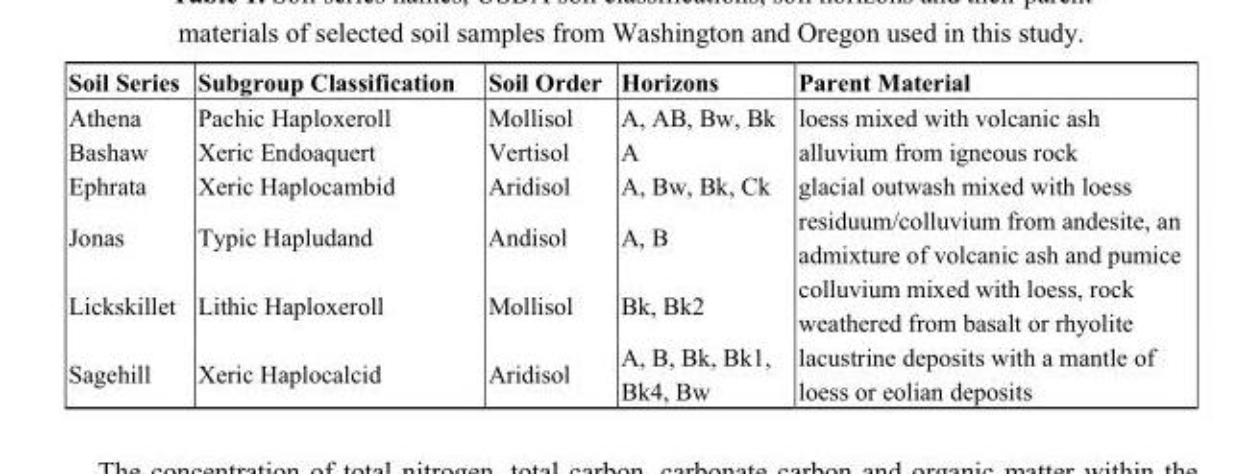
<table><thead><tr><td>Soil Series</td><td>Subgroup Classification</td><td>Soil Order</td><td>Horizons</td><td>Parent Material</td></tr></thead><tbody><tr><td>Athena</td><td>Pachic Haploxeroll</td><td>Mollisol</td><td>A, AB, Bw, Bk</td><td>loess mixed with volcanic ash</td></tr><tr><td>Bashaw</td><td>Xeric Endoaquert</td><td>Vertisol</td><td>A</td><td>alluvium from igneous rock</td></tr><tr><td>Ephrata</td><td>Xeric Haplocambid</td><td>Aridisol</td><td>A, Bw, Bk, Ck</td><td>glacial outwash mixed with loess</td></tr><tr><td>Jonas</td><td>Typic Hapludand</td><td>Andisol</td><td>A, B</td><td>residuum/colluvium from andesite, an admixture of volcanic ash and pumice</td></tr><tr><td>Lickskillet</td><td>Lithic Haploxeroll</td><td>Mollisol</td><td>Bk, Bk2</td><td>colluvium mixed with loess, rock weathered from basalt or rhyolite</td></tr><tr><td>Sagehill</td><td>Xeric Haplocalcid</td><td>Aridisol</td><td>A, B, Bk, Bk1, Bk4, Bw</td><td>lacustrine deposits with a mantle of loess or eolian deposits</td></tr></tbody></table>